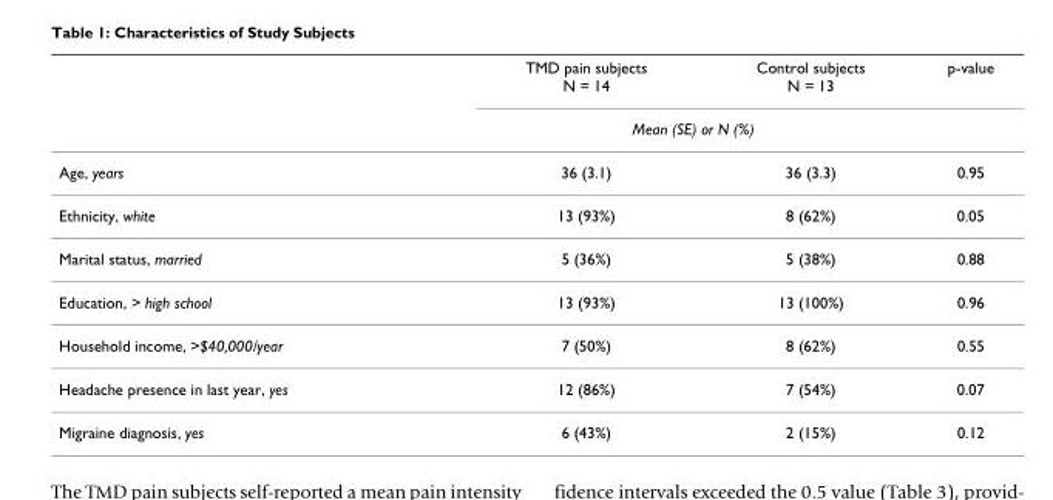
<table><thead><tr><td rowspan="2"></td><td>TMD pain subjects N = 14</td><td>Control subjects N = 13</td><td rowspan="2">p-value</td></tr><tr><td colspan="2">Mean (SE) or N (%)</td></tr></thead><tbody><tr><td>Age, years</td><td>36 (3.1)</td><td>36 (3.3)</td><td>0.95</td></tr><tr><td>Ethnicity, white</td><td>13 (93%)</td><td>8 (62%)</td><td>0.05</td></tr><tr><td>Marital status, married</td><td>5 (36%)</td><td>5 (38%)</td><td>0.88</td></tr><tr><td>Education, &gt; high school</td><td>13 (93%)</td><td>13 (100%)</td><td>0.96</td></tr><tr><td>Household income, &gt;$40,000/year</td><td>7 (50%)</td><td>8 (62%)</td><td>0.55</td></tr><tr><td>Headache presence in last year, yes</td><td>12 (86%)</td><td>7 (54%)</td><td>0.07</td></tr><tr><td>Migraine diagnosis, yes</td><td>6 (43%)</td><td>2 (15%)</td><td>0.12</td></tr></tbody></table>